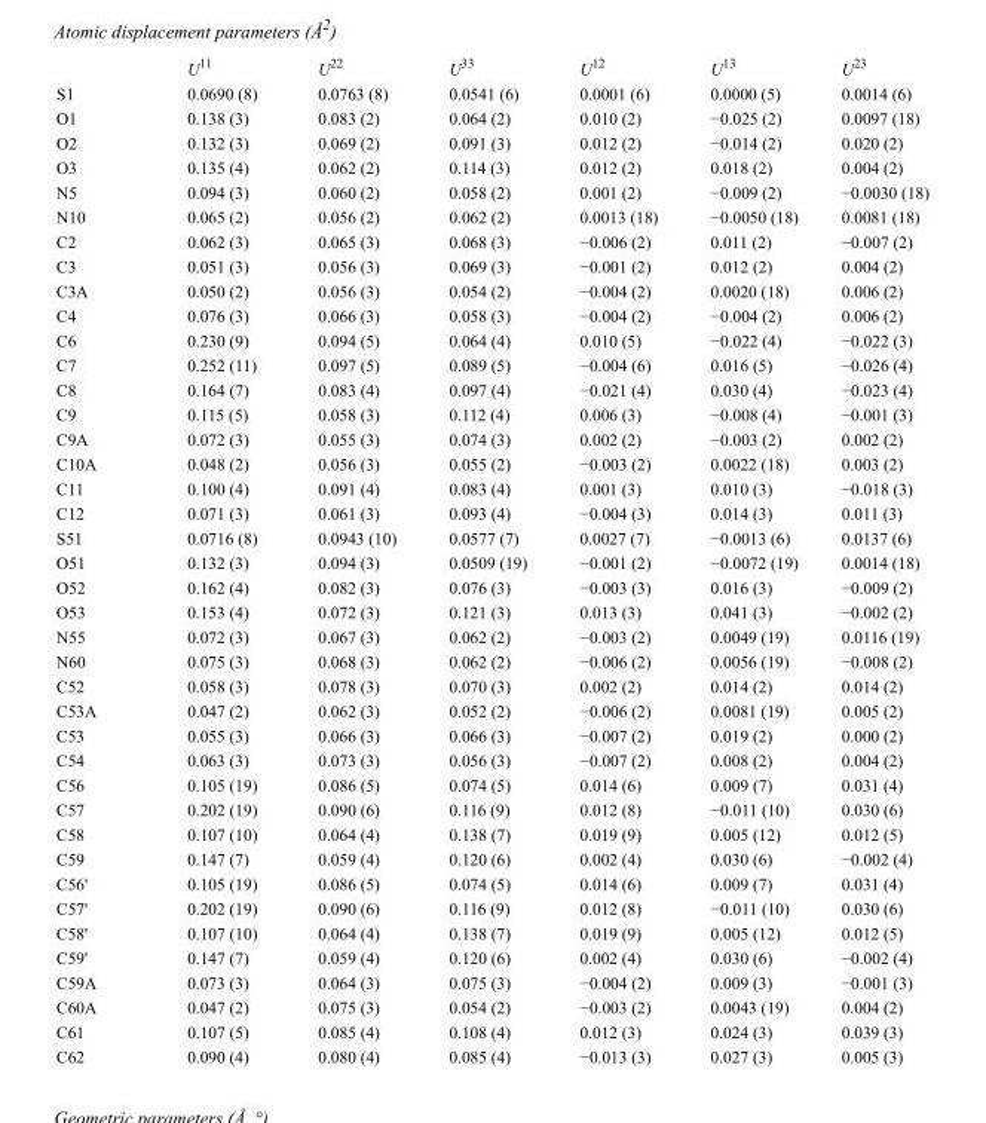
<table><thead><tr><td></td><td>U<sup>11</sup></td><td>U<sup>22</sup></td><td>U<sup>33</sup></td><td>U<sup>12</sup></td><td>U<sup>13</sup></td><td>U<sup>23</sup></td></tr></thead><tbody><tr><td>S1</td><td>0.0690 (8)</td><td>0.0763 (8)</td><td>0.0541 (6)</td><td>0.0001 (6)</td><td>0.0000 (5)</td><td>0.0014 (6)</td></tr><tr><td>O1</td><td>0.138 (3)</td><td>0.083 (2)</td><td>0.064 (2)</td><td>0.010 (2)</td><td>−0.025 (2)</td><td>0.0097 (18)</td></tr><tr><td>O2</td><td>0.132 (3)</td><td>0.069 (2)</td><td>0.091 (3)</td><td>0.012 (2)</td><td>−0.014 (2)</td><td>0.020 (2)</td></tr><tr><td>O3</td><td>0.135 (4)</td><td>0.062 (2)</td><td>0.114 (3)</td><td>0.012 (2)</td><td>0.018 (2)</td><td>0.004 (2)</td></tr><tr><td>N5</td><td>0.094 (3)</td><td>0.060 (2)</td><td>0.058 (2)</td><td>0.001 (2)</td><td>−0.009 (2)</td><td>−0.0030 (18)</td></tr><tr><td>N10</td><td>0.065 (2)</td><td>0.056 (2)</td><td>0.062 (2)</td><td>0.0013 (18)</td><td>−0.0050 (18)</td><td>0.0081 (18)</td></tr><tr><td>C2</td><td>0.062 (3)</td><td>0.065 (3)</td><td>0.068 (3)</td><td>−0.006 (2)</td><td>0.011 (2)</td><td>−0.007 (2)</td></tr><tr><td>C3</td><td>0.051 (3)</td><td>0.056 (3)</td><td>0.069 (3)</td><td>−0.001 (2)</td><td>0.012 (2)</td><td>0.004 (2)</td></tr><tr><td>C3A</td><td>0.050 (2)</td><td>0.056 (3)</td><td>0.054 (2)</td><td>−0.004 (2)</td><td>0.0020 (18)</td><td>0.006 (2)</td></tr><tr><td>C4</td><td>0.076 (3)</td><td>0.066 (3)</td><td>0.058 (3)</td><td>−0.004 (2)</td><td>−0.004 (2)</td><td>0.006 (2)</td></tr><tr><td>C6</td><td>0.230 (9)</td><td>0.094 (5)</td><td>0.064 (4)</td><td>0.010 (5)</td><td>−0.022 (4)</td><td>−0.022 (3)</td></tr><tr><td>C7</td><td>0.252 (11)</td><td>0.097 (5)</td><td>0.089 (5)</td><td>−0.004 (6)</td><td>0.016 (5)</td><td>−0.026 (4)</td></tr><tr><td>C8</td><td>0.164 (7)</td><td>0.083 (4)</td><td>0.097 (4)</td><td>−0.021 (4)</td><td>0.030 (4)</td><td>−0.023 (4)</td></tr><tr><td>C9</td><td>0.115 (5)</td><td>0.058 (3)</td><td>0.112 (4)</td><td>0.006 (3)</td><td>−0.008 (4)</td><td>−0.001 (3)</td></tr><tr><td>C9A</td><td>0.072 (3)</td><td>0.055 (3)</td><td>0.074 (3)</td><td>0.002 (2)</td><td>−0.003 (2)</td><td>0.002 (2)</td></tr><tr><td>C10A</td><td>0.048 (2)</td><td>0.056 (3)</td><td>0.055 (2)</td><td>−0.003 (2)</td><td>0.0022 (18)</td><td>0.003 (2)</td></tr><tr><td>C11</td><td>0.100 (4)</td><td>0.091 (4)</td><td>0.083 (4)</td><td>0.001 (3)</td><td>0.010 (3)</td><td>−0.018 (3)</td></tr><tr><td>C12</td><td>0.071 (3)</td><td>0.061 (3)</td><td>0.093 (4)</td><td>−0.004 (3)</td><td>0.014 (3)</td><td>0.011 (3)</td></tr><tr><td>S51</td><td>0.0716 (8)</td><td>0.0943 (10)</td><td>0.0577 (7)</td><td>0.0027 (7)</td><td>−0.0013 (6)</td><td>0.0137 (6)</td></tr><tr><td>O51</td><td>0.132 (3)</td><td>0.094 (3)</td><td>0.0509 (19)</td><td>−0.001 (2)</td><td>−0.0072 (19)</td><td>0.0014 (18)</td></tr><tr><td>O52</td><td>0.162 (4)</td><td>0.082 (3)</td><td>0.076 (3)</td><td>−0.003 (3)</td><td>0.016 (3)</td><td>−0.009 (2)</td></tr><tr><td>O53</td><td>0.153 (4)</td><td>0.072 (3)</td><td>0.121 (3)</td><td>0.013 (3)</td><td>0.041 (3)</td><td>−0.002 (2)</td></tr><tr><td>N55</td><td>0.072 (3)</td><td>0.067 (3)</td><td>0.062 (2)</td><td>−0.003 (2)</td><td>0.0049 (19)</td><td>0.0116 (19)</td></tr><tr><td>N60</td><td>0.075 (3)</td><td>0.068 (3)</td><td>0.062 (2)</td><td>−0.006 (2)</td><td>0.0056 (19)</td><td>−0.008 (2)</td></tr><tr><td>C52</td><td>0.058 (3)</td><td>0.078 (3)</td><td>0.070 (3)</td><td>0.002 (2)</td><td>0.014 (2)</td><td>0.014 (2)</td></tr><tr><td>C53A</td><td>0.047 (2)</td><td>0.062 (3)</td><td>0.052 (2)</td><td>−0.006 (2)</td><td>0.0081 (19)</td><td>0.005 (2)</td></tr><tr><td>C53</td><td>0.055 (3)</td><td>0.066 (3)</td><td>0.066 (3)</td><td>−0.007 (2)</td><td>0.019 (2)</td><td>0.000 (2)</td></tr><tr><td>C54</td><td>0.063 (3)</td><td>0.073 (3)</td><td>0.056 (3)</td><td>−0.007 (2)</td><td>0.008 (2)</td><td>0.004 (2)</td></tr><tr><td>C56</td><td>0.105 (19)</td><td>0.086 (5)</td><td>0.074 (5)</td><td>0.014 (6)</td><td>0.009 (7)</td><td>0.031 (4)</td></tr><tr><td>C57</td><td>0.202 (19)</td><td>0.090 (6)</td><td>0.116 (9)</td><td>0.012 (8)</td><td>−0.011 (10)</td><td>0.030 (6)</td></tr><tr><td>C58</td><td>0.107 (10)</td><td>0.064 (4)</td><td>0.138 (7)</td><td>0.019 (9)</td><td>0.005 (12)</td><td>0.012 (5)</td></tr><tr><td>C59</td><td>0.147 (7)</td><td>0.059 (4)</td><td>0.120 (6)</td><td>0.002 (4)</td><td>0.030 (6)</td><td>−0.002 (4)</td></tr><tr><td>C56&#x27;</td><td>0.105 (19)</td><td>0.086 (5)</td><td>0.074 (5)</td><td>0.014 (6)</td><td>0.009 (7)</td><td>0.031 (4)</td></tr><tr><td>C57&#x27;</td><td>0.202 (19)</td><td>0.090 (6)</td><td>0.116 (9)</td><td>0.012 (8)</td><td>−0.011 (10)</td><td>0.030 (6)</td></tr><tr><td>C58&#x27;</td><td>0.107 (10)</td><td>0.064 (4)</td><td>0.138 (7)</td><td>0.019 (9)</td><td>0.005 (12)</td><td>0.012 (5)</td></tr><tr><td>C59&#x27;</td><td>0.147 (7)</td><td>0.059 (4)</td><td>0.120 (6)</td><td>0.002 (4)</td><td>0.030 (6)</td><td>−0.002 (4)</td></tr><tr><td>C59A</td><td>0.073 (3)</td><td>0.064 (3)</td><td>0.075 (3)</td><td>−0.004 (2)</td><td>0.009 (3)</td><td>−0.001 (3)</td></tr><tr><td>C60A</td><td>0.047 (2)</td><td>0.075 (3)</td><td>0.054 (2)</td><td>−0.003 (2)</td><td>0.0043 (19)</td><td>0.004 (2)</td></tr><tr><td>C61</td><td>0.107 (5)</td><td>0.085 (4)</td><td>0.108 (4)</td><td>0.012 (3)</td><td>0.024 (3)</td><td>0.039 (3)</td></tr><tr><td>C62</td><td>0.090 (4)</td><td>0.080 (4)</td><td>0.085 (4)</td><td>−0.013 (3)</td><td>0.027 (3)</td><td>0.005 (3)</td></tr></tbody></table>